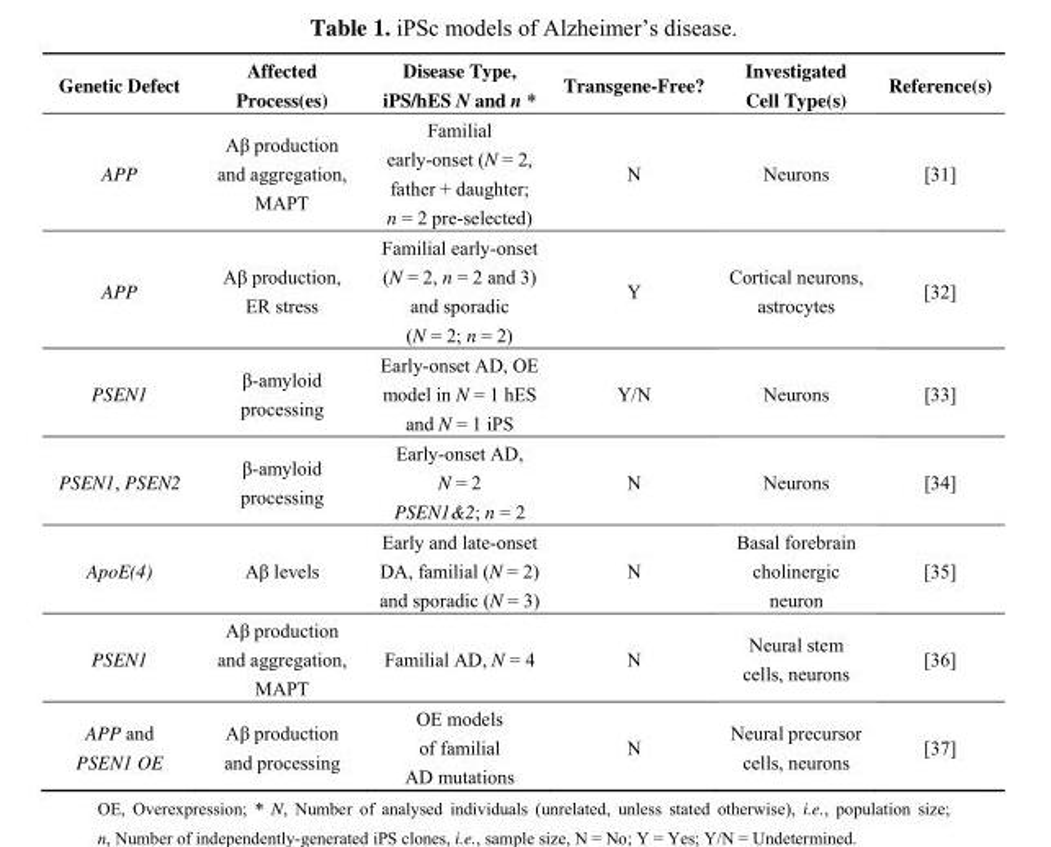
<table><thead><tr><td>Genetic Defect</td><td>Affected Process(es)</td><td>Disease Type, iPS/hES N and n *</td><td>Transgene-Free?</td><td>Investigated Cell Type(s)</td><td>Reference(s)</td></tr></thead><tbody><tr><td>APP</td><td>Aβ production and aggregation, MAPT</td><td>Familial early-onset (N = 2, father + daughter; n = 2 pre-selected)</td><td>N</td><td>Neurons</td><td>[31]</td></tr><tr><td>APP</td><td>Aβ production, ER stress</td><td>Familial early-onset (N = 2, n = 2 and 3) and sporadic (N = 2; n = 2)</td><td>Y</td><td>Cortical neurons, astrocytes</td><td>[32]</td></tr><tr><td>PSEN1</td><td>β-amyloid processing</td><td>Early-onset AD, OE model in N = 1 hES and N = 1 iPS</td><td>Y/N</td><td>Neurons</td><td>[33]</td></tr><tr><td>PSEN1, PSEN2</td><td>β-amyloid processing</td><td>Early-onset AD, N = 2 PSEN1&amp;2; n = 2</td><td>N</td><td>Neurons</td><td>[34]</td></tr><tr><td>ApoE(4)</td><td>Aβ levels</td><td>Early and late-onset DA, familial (N = 2) and sporadic (N = 3)</td><td>N</td><td>Basal forebrain cholinergic neuron</td><td>[35]</td></tr><tr><td>PSEN1</td><td>Aβ production and aggregation, MAPT</td><td>Familial AD, N = 4</td><td>N</td><td>Neural stem cells, neurons</td><td>[36]</td></tr><tr><td>APP and PSEN1 OE</td><td>Aβ production and processing</td><td>OE models of familial AD mutations</td><td>N</td><td>Neural precursor cells, neurons</td><td>[37]</td></tr></tbody></table>